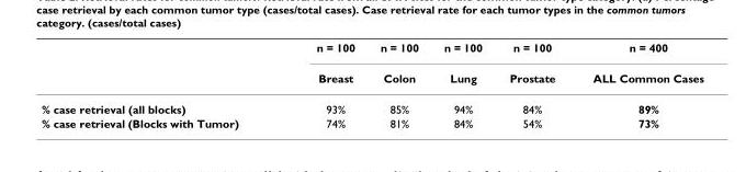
<table><thead><tr><td rowspan="2"></td><td rowspan="2">n = 100 Breast</td><td rowspan="2">n = 100 Colon</td><td rowspan="2">n = 100 Lung</td><td rowspan="2">n = 100 Prostate</td><td rowspan="2">n = 400 ALL Common Cases</td></tr><tr></tr></thead><tbody><tr><td>% case retrieval (all blocks)</td><td>93%</td><td>85%</td><td>94%</td><td>84%</td><td>89%</td></tr><tr><td>% case retrieval (Blocks with Tumor)</td><td>74%</td><td>81%</td><td>84%</td><td>54%</td><td>73%</td></tr></tbody></table>